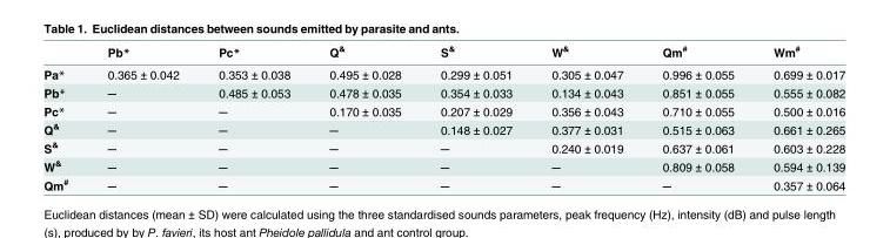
<table><thead><tr><td></td><td>Pb*</td><td>Pc*</td><td>Q<sup>&amp;</sup></td><td>S<sup>&amp;</sup></td><td>W<sup>&amp;</sup></td><td>Qm<sup>#</sup></td><td>Wm<sup>#</sup></td></tr></thead><tbody><tr><td>Pa*</td><td>0.365 ± 0.042</td><td>0.353 ± 0.038</td><td>0.495 ± 0.028</td><td>0.299 ± 0.051</td><td>0.305 ± 0.047</td><td>0.996 ± 0.055</td><td>0.699 ± 0.017</td></tr><tr><td>Pb*</td><td>─</td><td>0.485 ± 0.053</td><td>0.478 ± 0.035</td><td>0.354 ± 0.033</td><td>0.134 ± 0.043</td><td>0.851 ± 0.055</td><td>0.555 ± 0.082</td></tr><tr><td>Pc*</td><td>─</td><td>─</td><td>0.170 ± 0.035</td><td>0.207 ± 0.029</td><td>0.356 ± 0.043</td><td>0.710 ± 0.055</td><td>0.500 ± 0.016</td></tr><tr><td>Q<sup>&amp;</sup></td><td>─</td><td>─</td><td>─</td><td>0.148 ± 0.027</td><td>0.377 ± 0.031</td><td>0.515 ± 0.063</td><td>0.661 ± 0.265</td></tr><tr><td>S<sup>&amp;</sup></td><td>─</td><td>─</td><td>─</td><td>─</td><td>0.240 ± 0.019</td><td>0.637 ± 0.061</td><td>0.603 ± 0.228</td></tr><tr><td>W<sup>&amp;</sup></td><td>─</td><td>─</td><td>─</td><td>─</td><td>─</td><td>0.809 ± 0.058</td><td>0.594 ± 0.139</td></tr><tr><td>Qm<sup>#</sup></td><td>─</td><td>─</td><td>─</td><td>─</td><td>─</td><td>─</td><td>0.357 ± 0.064</td></tr></tbody></table>